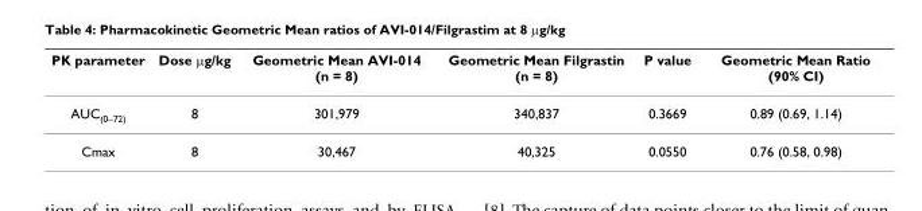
<table><thead><tr><td>PK parameter</td><td>Dose μg/kg</td><td>Geometric Mean AVI-014 (n = 8)</td><td>Geometric Mean Filgrastin (n = 8)</td><td>P value</td><td>Geometric Mean Ratio (90% CI)</td></tr></thead><tbody><tr><td>AUC<sub>(0–72)</sub></td><td>8</td><td>301,979</td><td>340,837</td><td>0.3669</td><td>0.89 (0.69, 1.14)</td></tr><tr><td>Cmax</td><td>8</td><td>30,467</td><td>40,325</td><td>0.0550</td><td>0.76 (0.58, 0.98)</td></tr></tbody></table>